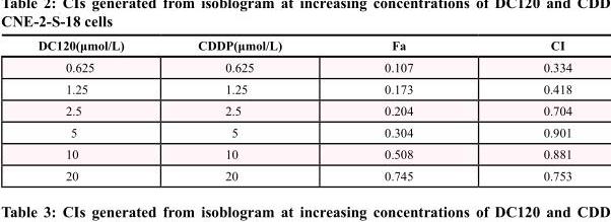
<table><thead><tr><td>DC120(μmol/L)</td><td>CDDP(μmol/L)</td><td>Fa</td><td>CI</td></tr></thead><tbody><tr><td>0.625</td><td>0.625</td><td>0.107</td><td>0.334</td></tr><tr><td>1.25</td><td>1.25</td><td>0.173</td><td>0.418</td></tr><tr><td>2.5</td><td>2.5</td><td>0.204</td><td>0.704</td></tr><tr><td>5</td><td>5</td><td>0.304</td><td>0.901</td></tr><tr><td>10</td><td>10</td><td>0.508</td><td>0.881</td></tr><tr><td>20</td><td>20</td><td>0.745</td><td>0.753</td></tr></tbody></table>